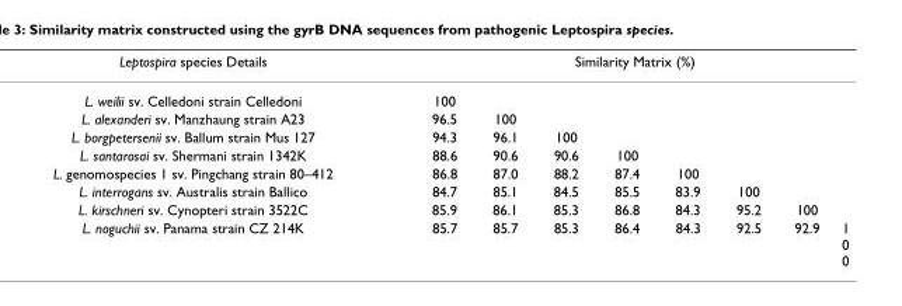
<table><thead><tr><td rowspan="2">Leptospira species Details L. weilii sv. Celledoni strain Celledoni</td><td colspan="8">Similarity Matrix (%)</td></tr><tr><td>100</td><td></td><td></td><td></td><td></td><td></td><td></td><td></td></tr></thead><tbody><tr><td>L. alexanderi sv. Manzhaung strain A23</td><td>96.5</td><td>100</td><td></td><td></td><td></td><td></td><td></td><td></td></tr><tr><td>L. borgpetersenii sv. Ballum strain Mus 127</td><td>94.3</td><td>96.1</td><td>100</td><td></td><td></td><td></td><td></td><td></td></tr><tr><td>L. santarosai sv. Shermani strain 1342K</td><td>88.6</td><td>90.6</td><td>90.6</td><td>100</td><td></td><td></td><td></td><td></td></tr><tr><td>L. genomospecies 1 sv. Pingchang strain 80–412</td><td>86.8</td><td>87.0</td><td>88.2</td><td>87.4</td><td>100</td><td></td><td></td><td></td></tr><tr><td>L. interrogans sv. Australis strain Ballico</td><td>84.7</td><td>85.1</td><td>84.5</td><td>85.5</td><td>83.9</td><td>100</td><td></td><td></td></tr><tr><td>L. kirschneri sv. Cynopteri strain 3522C</td><td>85.9</td><td>86.1</td><td>85.3</td><td>86.8</td><td>84.3</td><td>95.2</td><td>100</td><td></td></tr><tr><td>L. noguchii sv. Panama strain CZ 214K</td><td>85.7</td><td>85.7</td><td>85.3</td><td>86.4</td><td>84.3</td><td>92.5</td><td>92.9</td><td>1 0</td></tr></tbody></table>